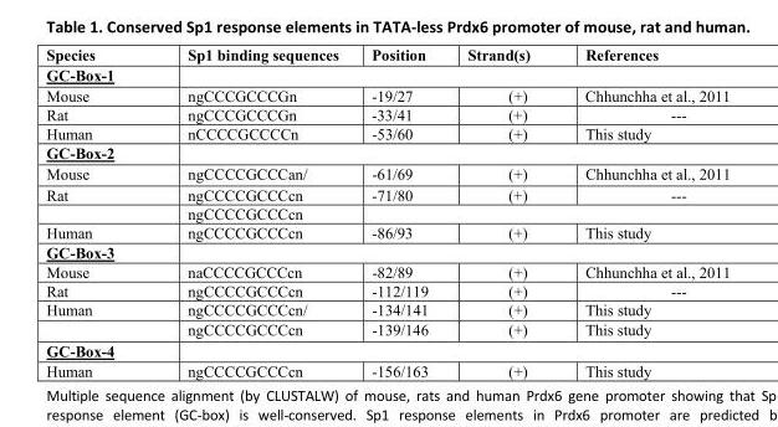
<table><tbody><tr><td>Species</td><td>Sp1 binding sequences</td><td>Position</td><td>Strand(s)</td><td>References</td></tr><tr><td colspan="5">GC-Box-1</td></tr><tr><td>Mouse</td><td>ngCCCGCCCGn</td><td>-19/27</td><td>(+)</td><td>Chhunchha et al., 2011</td></tr><tr><td>Rat</td><td>ngCCCGCCCGn</td><td>-33/41</td><td>(+)</td><td>---</td></tr><tr><td>Human</td><td>nCCCCGCCCCn</td><td>-53/60</td><td>(+)</td><td>This study</td></tr><tr><td colspan="5">GC-Box-2</td></tr><tr><td>Mouse</td><td>ngCCCCGCCCan/</td><td>-61/69</td><td>(+)</td><td>Chhunchha et al., 2011</td></tr><tr><td rowspan="2">Rat</td><td>ngCCCCGCCCcn</td><td>-71/80</td><td>(+)</td><td>---</td></tr><tr><td>ngCCCCGCCCcn</td><td></td><td></td><td></td></tr><tr><td>Human</td><td>ngCCCCGCCCcn</td><td>-86/93</td><td>(+)</td><td>This study</td></tr><tr><td colspan="5">GC-Box-3</td></tr><tr><td>Mouse</td><td>naCCCCGCCCcn</td><td>-82/89</td><td>(+)</td><td>Chhunchha et al., 2011</td></tr><tr><td>Rat</td><td>ngCCCCGCCCcn</td><td>-112/119</td><td>(+)</td><td>---</td></tr><tr><td rowspan="2">Human</td><td>ngCCCCGCCCcn/</td><td>-134/141</td><td>(+)</td><td>This study</td></tr><tr><td>ngCCCCGCCCcn</td><td>-139/146</td><td>(+)</td><td>This study</td></tr><tr><td colspan="5">GC-Box-4</td></tr><tr><td>Human</td><td>ngCCCCGCCCcn</td><td>-156/163</td><td>(+)</td><td>This study</td></tr></tbody></table>